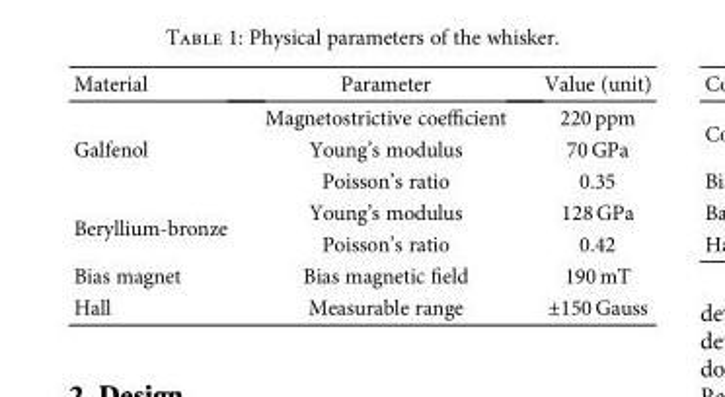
<table><thead><tr><td>Material</td><td>Parameter</td><td>Value (unit)</td></tr></thead><tbody><tr><td rowspan="3">Galfenol</td><td>Magnetostrictive coefficient</td><td>220 ppm</td></tr><tr><td>Young’s modulus</td><td>70 GPa</td></tr><tr><td>Poisson’s ratio</td><td>0.35</td></tr><tr><td rowspan="2">Beryllium-bronze</td><td>Young’s modulus</td><td>128 GPa</td></tr><tr><td>Poisson’s ratio</td><td>0.42</td></tr><tr><td>Bias magnet</td><td>Bias magnetic field</td><td>190 mT</td></tr><tr><td>Hall</td><td>Measurable range</td><td>±150 Gauss</td></tr></tbody></table>